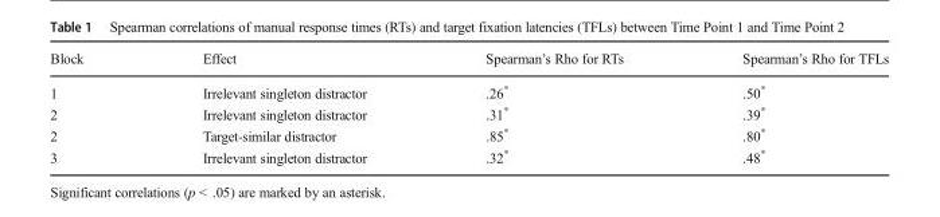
<table><thead><tr><td>Block</td><td>Effect</td><td>Spearman’s Rho for RTs</td><td>Spearman’s Rho for TFLs</td></tr></thead><tbody><tr><td>1</td><td>Irrelevant singleton distractor</td><td>.26*</td><td>.50*</td></tr><tr><td>2</td><td>Irrelevant singleton distractor</td><td>.31*</td><td>.39*</td></tr><tr><td>2</td><td>Target-similar distractor</td><td>.85*</td><td>.80*</td></tr><tr><td>3</td><td>Irrelevant singleton distractor</td><td>.32*</td><td>.48*</td></tr></tbody></table>